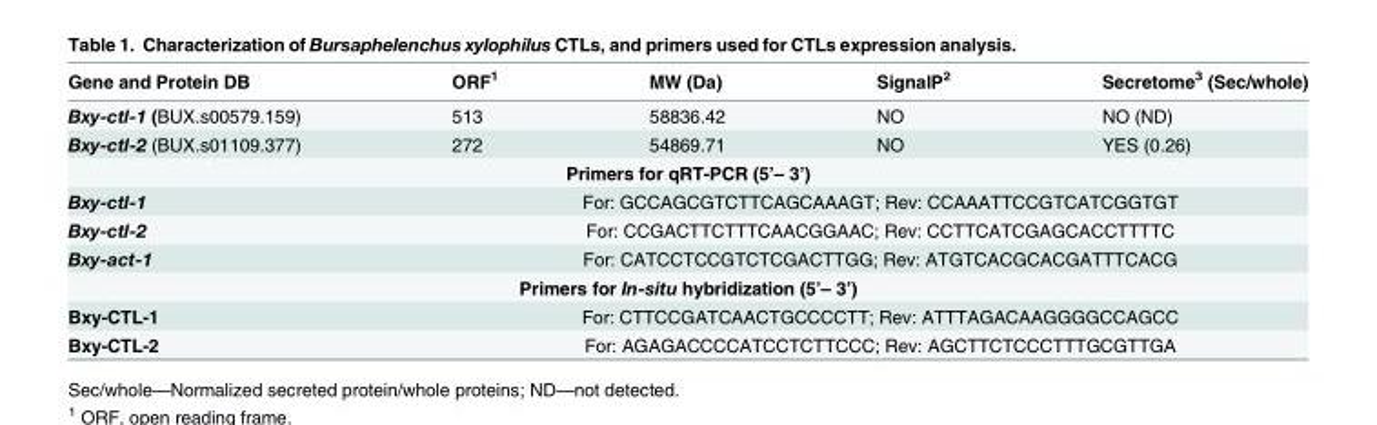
<table><thead><tr><td>Gene and Protein DB</td><td>ORF<sup>1</sup></td><td>MW (Da)</td><td>SignalP<sup>2</sup></td><td>Secretome<sup>3</sup> (Sec/whole)</td></tr></thead><tbody><tr><td>Bxy-ctl-1 (BUX.s00579.159)</td><td>513</td><td>58836.42</td><td>NO</td><td>NO (ND)</td></tr><tr><td>Bxy-ctl-2 (BUX.s01109.377)</td><td>272</td><td>54869.71</td><td>NO</td><td>YES (0.26)</td></tr><tr><td colspan="5">Primers for qRT-PCR (5’– 3’)</td></tr><tr><td>Bxy-ctl-1</td><td colspan="4">For: GCCAGCGTCTTCAGCAAAGT; Rev: CCAAATTCCGTCATCGGTGT</td></tr><tr><td>Bxy-ctl-2</td><td colspan="4">For: CCGACTTCTTTCAACGGAAC; Rev: CCTTCATCGAGCACCTTTTC</td></tr><tr><td>Bxy-act-1</td><td colspan="4">For: CATCCTCCGTCTCGACTTGG; Rev: ATGTCACGCACGATTTCACG</td></tr><tr><td colspan="5">Primers for In-situ hybridization (5’– 3’)</td></tr><tr><td>Bxy-CTL-1</td><td colspan="4">For: CTTCCGATCAACTGCCCCTT; Rev: ATTTAGACAAGGGGCCAGCC</td></tr><tr><td>Bxy-CTL-2</td><td colspan="4">For: AGAGACCCCATCCTCTTCCC; Rev: AGCTTCTCCCTTTGCGTTGA</td></tr></tbody></table>